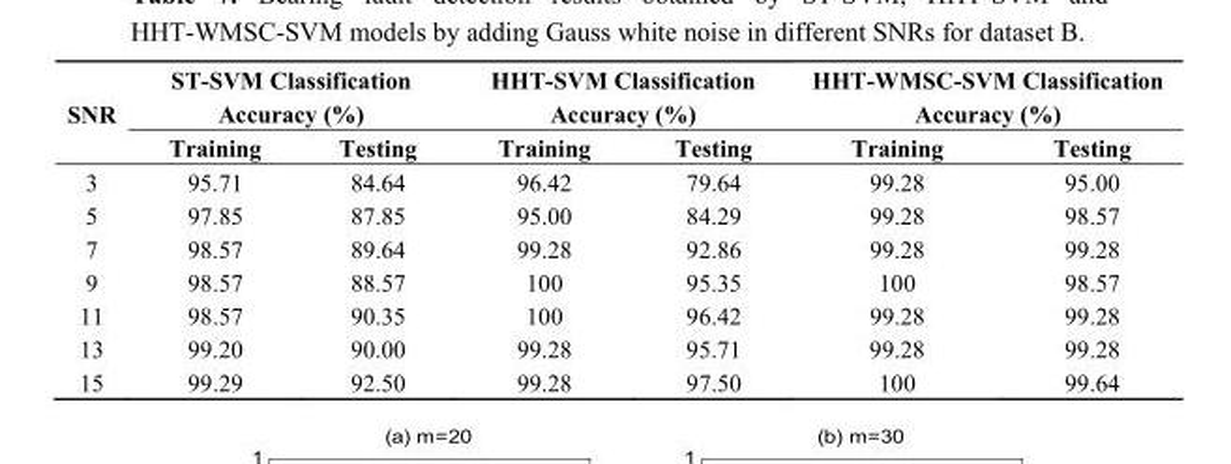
<table><thead><tr><td rowspan="2">SNR</td><td colspan="2">ST-SVM Classification Accuracy (%)</td><td colspan="2">HHT-SVM Classification Accuracy (%)</td><td colspan="2">HHT-WMSC-SVM Classification Accuracy (%)</td></tr><tr><td>Training</td><td>Testing</td><td>Training</td><td>Testing</td><td>Training</td><td>Testing</td></tr></thead><tbody><tr><td>3</td><td>95.71</td><td>84.64</td><td>96.42</td><td>79.64</td><td>99.28</td><td>95.00</td></tr><tr><td>5</td><td>97.85</td><td>87.85</td><td>95.00</td><td>84.29</td><td>99.28</td><td>98.57</td></tr><tr><td>7</td><td>98.57</td><td>89.64</td><td>99.28</td><td>92.86</td><td>99.28</td><td>99.28</td></tr><tr><td>9</td><td>98.57</td><td>88.57</td><td>100</td><td>95.35</td><td>100</td><td>98.57</td></tr><tr><td>11</td><td>98.57</td><td>90.35</td><td>100</td><td>96.42</td><td>99.28</td><td>99.28</td></tr><tr><td>13</td><td>99.20</td><td>90.00</td><td>99.28</td><td>95.71</td><td>99.28</td><td>99.28</td></tr><tr><td>15</td><td>99.29</td><td>92.50</td><td>99.28</td><td>97.50</td><td>100</td><td>99.64</td></tr></tbody></table>